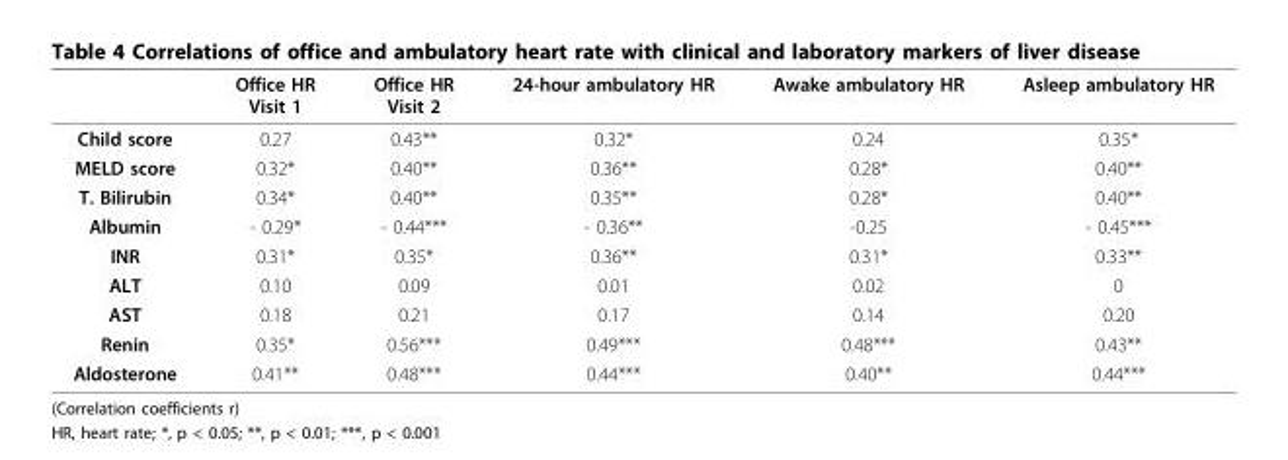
<table><thead><tr><td></td><td>Office HR Visit 1</td><td>Office HR Visit 2</td><td>24-hour ambulatory HR</td><td>Awake ambulatory HR</td><td>Asleep ambulatory HR</td></tr></thead><tbody><tr><td>Child score</td><td>0.27</td><td>0.43**</td><td>0.32*</td><td>0.24</td><td>0.35*</td></tr><tr><td>MELD score</td><td>0.32*</td><td>0.40**</td><td>0.36**</td><td>0.28*</td><td>0.40**</td></tr><tr><td>T. Bilirubin</td><td>0.34*</td><td>0.40**</td><td>0.35**</td><td>0.28*</td><td>0.40**</td></tr><tr><td>Albumin</td><td>- 0.29*</td><td>- 0.44***</td><td>- 0.36**</td><td>-0.25</td><td>- 0.45***</td></tr><tr><td>INR</td><td>0.31*</td><td>0.35*</td><td>0.36**</td><td>0.31*</td><td>0.33**</td></tr><tr><td>ALT</td><td>0.10</td><td>0.09</td><td>0.01</td><td>0.02</td><td>0</td></tr><tr><td>AST</td><td>0.18</td><td>0.21</td><td>0.17</td><td>0.14</td><td>0.20</td></tr><tr><td>Renin</td><td>0.35*</td><td>0.56***</td><td>0.49***</td><td>0.48***</td><td>0.43**</td></tr><tr><td>Aldosterone</td><td>0.41**</td><td>0.48***</td><td>0.44***</td><td>0.40**</td><td>0.44***</td></tr></tbody></table>